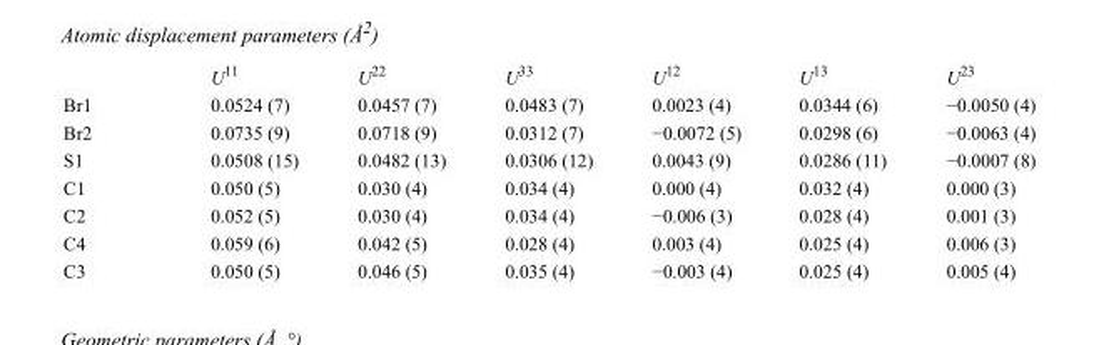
<table><thead><tr><td></td><td>U<sup>11</sup></td><td>U<sup>22</sup></td><td>U<sup>33</sup></td><td>U<sup>12</sup></td><td>U<sup>13</sup></td><td>U<sup>23</sup></td></tr></thead><tbody><tr><td>Br1</td><td>0.0524 (7)</td><td>0.0457 (7)</td><td>0.0483 (7)</td><td>0.0023 (4)</td><td>0.0344 (6)</td><td>−0.0050 (4)</td></tr><tr><td>Br2</td><td>0.0735 (9)</td><td>0.0718 (9)</td><td>0.0312 (7)</td><td>−0.0072 (5)</td><td>0.0298 (6)</td><td>−0.0063 (4)</td></tr><tr><td>S1</td><td>0.0508 (15)</td><td>0.0482 (13)</td><td>0.0306 (12)</td><td>0.0043 (9)</td><td>0.0286 (11)</td><td>−0.0007 (8)</td></tr><tr><td>C1</td><td>0.050 (5)</td><td>0.030 (4)</td><td>0.034 (4)</td><td>0.000 (4)</td><td>0.032 (4)</td><td>0.000 (3)</td></tr><tr><td>C2</td><td>0.052 (5)</td><td>0.030 (4)</td><td>0.034 (4)</td><td>−0.006 (3)</td><td>0.028 (4)</td><td>0.001 (3)</td></tr><tr><td>C4</td><td>0.059 (6)</td><td>0.042 (5)</td><td>0.028 (4)</td><td>0.003 (4)</td><td>0.025 (4)</td><td>0.006 (3)</td></tr><tr><td>C3</td><td>0.050 (5)</td><td>0.046 (5)</td><td>0.035 (4)</td><td>−0.003 (4)</td><td>0.025 (4)</td><td>0.005 (4)</td></tr></tbody></table>